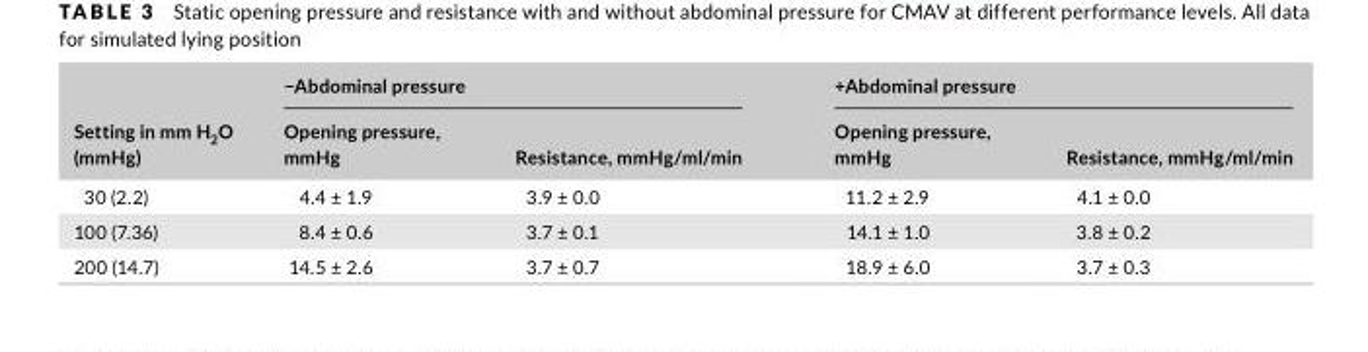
<table><thead><tr><td rowspan="2">Setting in mm H<sub>2</sub>O (mmHg)</td><td colspan="2">−Abdominal pressure</td><td colspan="2">+Abdominal pressure</td></tr><tr><td>Opening pressure, mmHg</td><td>Resistance, mmHg/ml/min</td><td>Opening pressure, mmHg</td><td>Resistance, mmHg/ml/min</td></tr></thead><tbody><tr><td>30 (2.2)</td><td>4.4 ± 1.9</td><td>3.9 ± 0.0</td><td>11.2 ± 2.9</td><td>4.1 ± 0.0</td></tr><tr><td>100 (7.36)</td><td>8.4 ± 0.6</td><td>3.7 ± 0.1</td><td>14.1 ± 1.0</td><td>3.8 ± 0.2</td></tr><tr><td>200 (14.7)</td><td>14.5 ± 2.6</td><td>3.7 ± 0.7</td><td>18.9 ± 6.0</td><td>3.7 ± 0.3</td></tr></tbody></table>